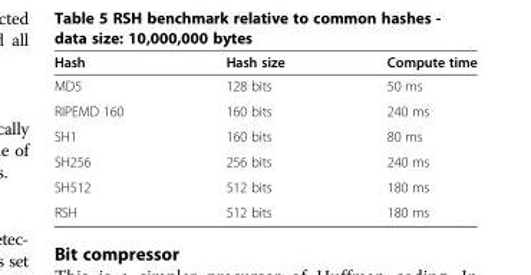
<table><thead><tr><td>Hash</td><td>Hash size</td><td>Compute time</td></tr></thead><tbody><tr><td>MD5</td><td>128 bits</td><td>50 ms</td></tr><tr><td>RIPEMD 160</td><td>160 bits</td><td>240 ms</td></tr><tr><td>SH1</td><td>160 bits</td><td>80 ms</td></tr><tr><td>SH256</td><td>256 bits</td><td>240 ms</td></tr><tr><td>SH512</td><td>512 bits</td><td>180 ms</td></tr><tr><td>RSH</td><td>512 bits</td><td>180 ms</td></tr></tbody></table>